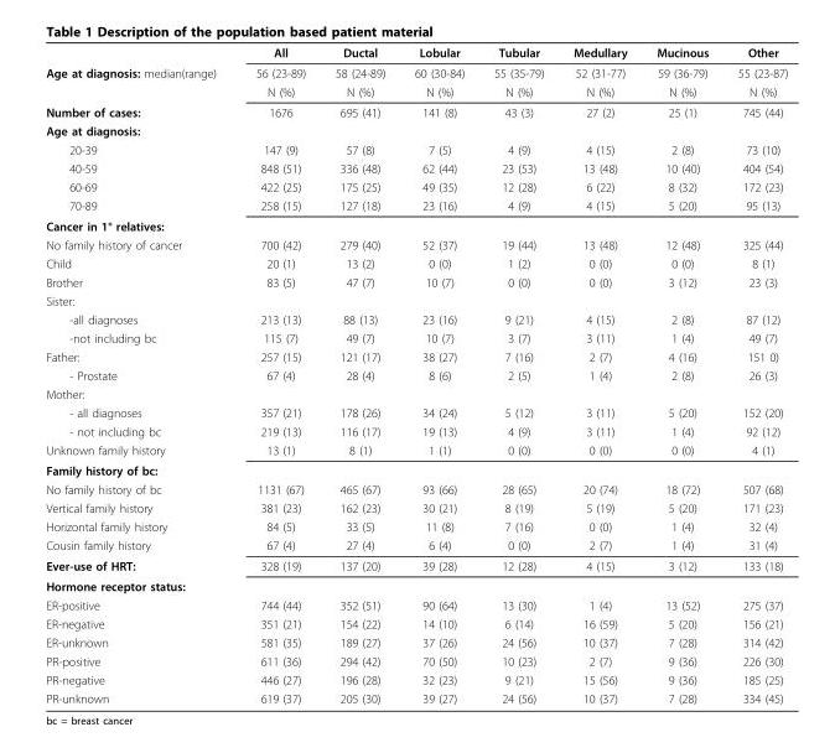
<table><thead><tr><td></td><td>All</td><td>Ductal</td><td>Lobular</td><td>Tubular</td><td>Medullary</td><td>Mucinous</td><td>Other</td></tr></thead><tbody><tr><td rowspan="2">Age at diagnosis: median(range)</td><td>56 (23-89)</td><td>58 (24-89)</td><td>60 (30-84)</td><td>55 (35-79)</td><td>52 (31-77)</td><td>59 (36-79)</td><td>55 (23-87)</td></tr><tr><td>N (%)</td><td>N (%)</td><td>N (%)</td><td>N (%)</td><td>N (%)</td><td>N (%)</td><td>N (%)</td></tr><tr><td>Number of cases:</td><td>1676</td><td>695 (41)</td><td>141 (8)</td><td>43 (3)</td><td>27 (2)</td><td>25 (1)</td><td>745 (44)</td></tr><tr><td colspan="8">Age at diagnosis:</td></tr><tr><td>20-39</td><td>147 (9)</td><td>57 (8)</td><td>7 (5)</td><td>4 (9)</td><td>4 (15)</td><td>2 (8)</td><td>73 (10)</td></tr><tr><td>40-59</td><td>848 (51)</td><td>336 (48)</td><td>62 (44)</td><td>23 (53)</td><td>13 (48)</td><td>10 (40)</td><td>404 (54)</td></tr><tr><td>60-69</td><td>422 (25)</td><td>175 (25)</td><td>49 (35)</td><td>12 (28)</td><td>6 (22)</td><td>8 (32)</td><td>172 (23)</td></tr><tr><td>70-89</td><td>258 (15)</td><td>127 (18)</td><td>23 (16)</td><td>4 (9)</td><td>4 (15)</td><td>5 (20)</td><td>95 (13)</td></tr><tr><td colspan="8">Cancer in 1° relatives:</td></tr><tr><td>No family history of cancer</td><td>700 (42)</td><td>279 (40)</td><td>52 (37)</td><td>19 (44)</td><td>13 (48)</td><td>12 (48)</td><td>325 (44)</td></tr><tr><td>Child</td><td>20 (1)</td><td>13 (2)</td><td>0 (0)</td><td>1 (2)</td><td>0 (0)</td><td>0 (0)</td><td>8 (1)</td></tr><tr><td>Brother</td><td>83 (5)</td><td>47 (7)</td><td>10 (7)</td><td>0 (0)</td><td>0 (0)</td><td>3 (12)</td><td>23 (3)</td></tr><tr><td colspan="8">Sister:</td></tr><tr><td>-all diagnoses</td><td>213 (13)</td><td>88 (13)</td><td>23 (16)</td><td>9 (21)</td><td>4 (15)</td><td>2 (8)</td><td>87 (12)</td></tr><tr><td>-not including bc</td><td>115 (7)</td><td>49 (7)</td><td>10 (7)</td><td>3 (7)</td><td>3 (11)</td><td>1 (4)</td><td>49 (7)</td></tr><tr><td>Father:</td><td>257 (15)</td><td>121 (17)</td><td>38 (27)</td><td>7 (16)</td><td>2 (7)</td><td>4 (16)</td><td>151 0)</td></tr><tr><td>- Prostate</td><td>67 (4)</td><td>28 (4)</td><td>8 (6)</td><td>2 (5)</td><td>1 (4)</td><td>2 (8)</td><td>26 (3)</td></tr><tr><td colspan="8">Mother:</td></tr><tr><td>- all diagnoses</td><td>357 (21)</td><td>178 (26)</td><td>34 (24)</td><td>5 (12)</td><td>3 (11)</td><td>5 (20)</td><td>152 (20)</td></tr><tr><td>- not including bc</td><td>219 (13)</td><td>116 (17)</td><td>19 (13)</td><td>4 (9)</td><td>3 (11)</td><td>1 (4)</td><td>92 (12)</td></tr><tr><td>Unknown family history</td><td>13 (1)</td><td>8 (1)</td><td>1 (1)</td><td>0 (0)</td><td>0 (0)</td><td>0 (0)</td><td>4 (1)</td></tr><tr><td colspan="8">Family history of bc:</td></tr><tr><td>No family history of bc</td><td>1131 (67)</td><td>465 (67)</td><td>93 (66)</td><td>28 (65)</td><td>20 (74)</td><td>18 (72)</td><td>507 (68)</td></tr><tr><td>Vertical family history</td><td>381 (23)</td><td>162 (23)</td><td>30 (21)</td><td>8 (19)</td><td>5 (19)</td><td>5 (20)</td><td>171 (23)</td></tr><tr><td>Horizontal family history</td><td>84 (5)</td><td>33 (5)</td><td>11 (8)</td><td>7 (16)</td><td>0 (0)</td><td>1 (4)</td><td>32 (4)</td></tr><tr><td>Cousin family history</td><td>67 (4)</td><td>27 (4)</td><td>6 (4)</td><td>0 (0)</td><td>2 (7)</td><td>1 (4)</td><td>31 (4)</td></tr><tr><td>Ever-use of HRT:</td><td>328 (19)</td><td>137 (20)</td><td>39 (28)</td><td>12 (28)</td><td>4 (15)</td><td>3 (12)</td><td>133 (18)</td></tr><tr><td colspan="8">Hormone receptor status:</td></tr><tr><td>ER-positive</td><td>744 (44)</td><td>352 (51)</td><td>90 (64)</td><td>13 (30)</td><td>1 (4)</td><td>13 (52)</td><td>275 (37)</td></tr><tr><td>ER-negative</td><td>351 (21)</td><td>154 (22)</td><td>14 (10)</td><td>6 (14)</td><td>16 (59)</td><td>5 (20)</td><td>156 (21)</td></tr><tr><td>ER-unknown</td><td>581 (35)</td><td>189 (27)</td><td>37 (26)</td><td>24 (56)</td><td>10 (37)</td><td>7 (28)</td><td>314 (42)</td></tr><tr><td>PR-positive</td><td>611 (36)</td><td>294 (42)</td><td>70 (50)</td><td>10 (23)</td><td>2 (7)</td><td>9 (36)</td><td>226 (30)</td></tr><tr><td>PR-negative</td><td>446 (27)</td><td>196 (28)</td><td>32 (23)</td><td>9 (21)</td><td>15 (56)</td><td>9 (36)</td><td>185 (25)</td></tr><tr><td>PR-unknown</td><td>619 (37)</td><td>205 (30)</td><td>39 (27)</td><td>24 (56)</td><td>10 (37)</td><td>7 (28)</td><td>334 (45)</td></tr></tbody></table>